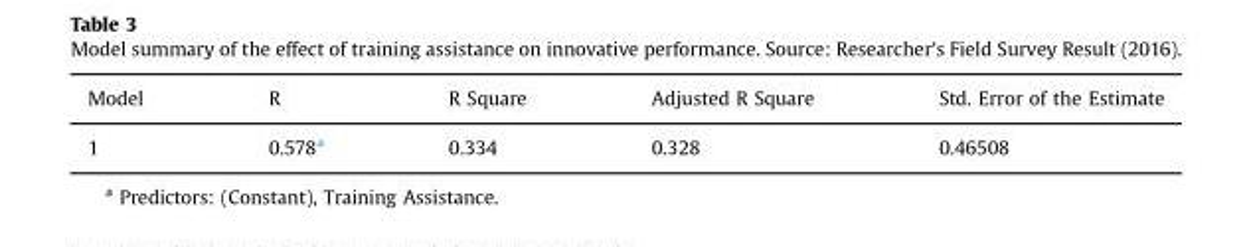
<table><thead><tr><td>Model</td><td>R</td><td>R Square</td><td>Adjusted R Square</td><td>Std. Error of the Estimate</td></tr></thead><tbody><tr><td>1</td><td>0.578<sup>a</sup></td><td>0.334</td><td>0.328</td><td>0.46508</td></tr></tbody></table>